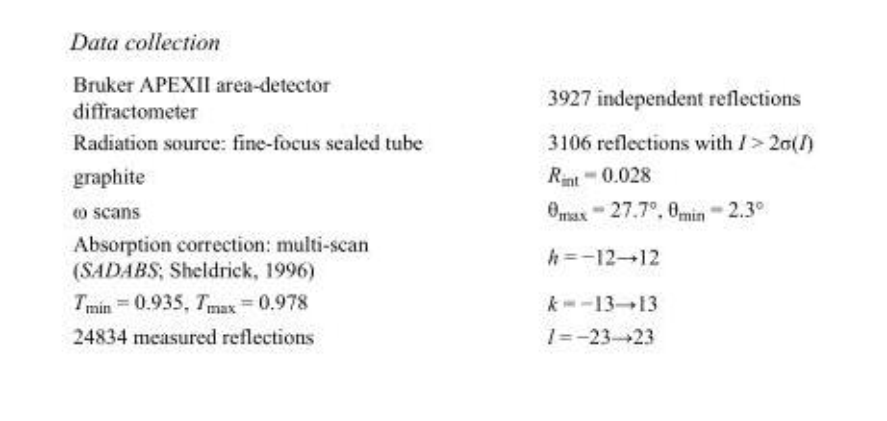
<table><tbody><tr><td>Bruker APEXII area-detector diffractometer</td><td>3927 independent reflections</td></tr><tr><td>Radiation source: fine-focus sealed tube</td><td>3106 reflections with I &gt; 2σ(I)</td></tr><tr><td>graphite</td><td>R<sub>int</sub> = 0.028</td></tr><tr><td>ω scans</td><td>θ<sub>max</sub> = 27.7°, θ<sub>min</sub> = 2.3°</td></tr><tr><td>Absorption correction: multi-scan (SADABS; Sheldrick, 1996)</td><td>h = −12→12</td></tr><tr><td>T<sub>min</sub> = 0.935, T<sub>max</sub> = 0.978</td><td>k = −13→13</td></tr><tr><td>24834 measured reflections</td><td>l = −23→23</td></tr></tbody></table>